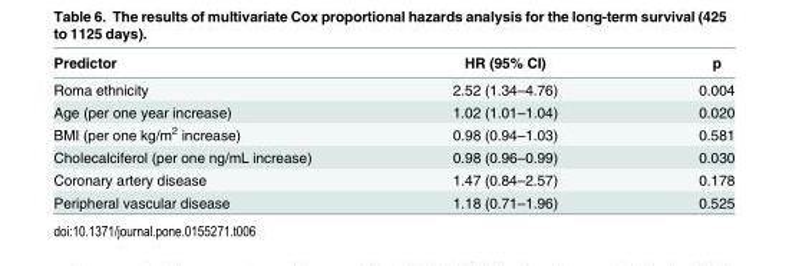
<table><thead><tr><td>Predictor</td><td>HR (95% CI)</td><td>p</td></tr></thead><tbody><tr><td>Roma ethnicity</td><td>2.52 (1.34–4.76)</td><td>0.004</td></tr><tr><td>Age (per one year increase)</td><td>1.02 (1.01–1.04)</td><td>0.020</td></tr><tr><td>BMI (per one kg/m<sup>2</sup> increase)</td><td>0.98 (0.94–1.03)</td><td>0.581</td></tr><tr><td>Cholecalciferol (per one ng/mL increase)</td><td>0.98 (0.96–0.99)</td><td>0.030</td></tr><tr><td>Coronary artery disease</td><td>1.47 (0.84–2.57)</td><td>0.178</td></tr><tr><td>Peripheral vascular disease</td><td>1.18 (0.71–1.96)</td><td>0.525</td></tr></tbody></table>